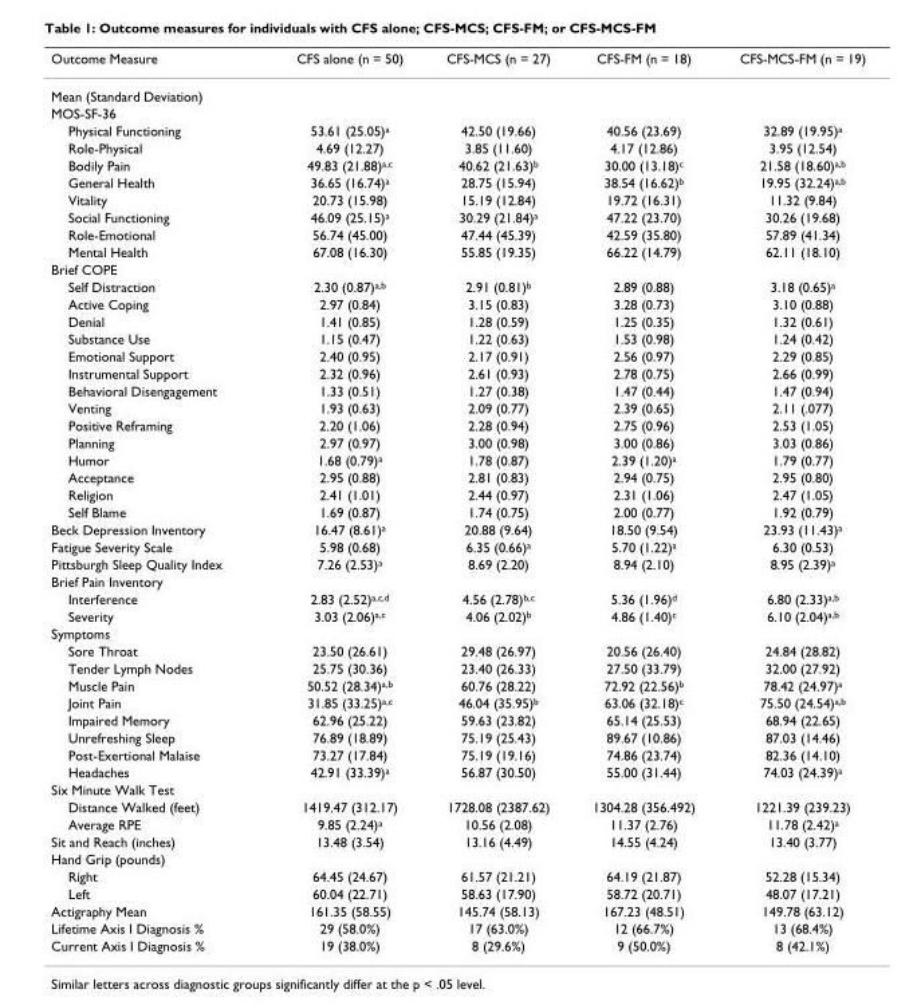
<table><thead><tr><td>Outcome Measure</td><td>CFS alone (n = 50)</td><td>CFS-MCS (n = 27)</td><td>CFS-FM (n = 18)</td><td>CFS-MCS-FM (n = 19)</td></tr></thead><tbody><tr><td colspan="5">Mean (Standard Deviation)</td></tr><tr><td colspan="5">MOS-SF-36</td></tr><tr><td>Physical Functioning</td><td>53.61 (25.05)<sup>a</sup></td><td>42.50 (19.66)</td><td>40.56 (23.69)</td><td>32.89 (19.95)<sup>a</sup></td></tr><tr><td>Role-Physical</td><td>4.69 (12.27)</td><td>3.85 (11.60)</td><td>4.17 (12.86)</td><td>3.95 (12.54)</td></tr><tr><td>Bodily Pain</td><td>49.83 (21.88)<sup>a,c</sup></td><td>40.62 (21.63)<sup>b</sup></td><td>30.00 (13.18)<sup>c</sup></td><td>21.58 (18.60)<sup>a,b</sup></td></tr><tr><td>General Health</td><td>36.65 (16.74)<sup>a</sup></td><td>28.75 (15.94)</td><td>38.54 (16.62)<sup>b</sup></td><td>19.95 (32.24)<sup>a,b</sup></td></tr><tr><td>Vitality</td><td>20.73 (15.98)</td><td>15.19 (12.84)</td><td>19.72 (16.31)</td><td>11.32 (9.84)</td></tr><tr><td>Social Functioning</td><td>46.09 (25.15)<sup>a</sup></td><td>30.29 (21.84)<sup>a</sup></td><td>47.22 (23.70)</td><td>30.26 (19.68)</td></tr><tr><td>Role-Emotional</td><td>56.74 (45.00)</td><td>47.44 (45.39)</td><td>42.59 (35.80)</td><td>57.89 (41.34)</td></tr><tr><td>Mental Health</td><td>67.08 (16.30)</td><td>55.85 (19.35)</td><td>66.22 (14.79)</td><td>62.11 (18.10)</td></tr><tr><td colspan="5">Brief COPE</td></tr><tr><td>Self Distraction</td><td>2.30 (0.87)<sup>a,b</sup></td><td>2.91 (0.81)<sup>b</sup></td><td>2.89 (0.88)</td><td>3.18 (0.65)<sup>a</sup></td></tr><tr><td>Active Coping</td><td>2.97 (0.84)</td><td>3.15 (0.83)</td><td>3.28 (0.73)</td><td>3.10 (0.88)</td></tr><tr><td>Denial</td><td>1.41 (0.85)</td><td>1.28 (0.59)</td><td>1.25 (0.35)</td><td>1.32 (0.61)</td></tr><tr><td>Substance Use</td><td>1.15 (0.47)</td><td>1.22 (0.63)</td><td>1.53 (0.98)</td><td>1.24 (0.42)</td></tr><tr><td>Emotional Support</td><td>2.40 (0.95)</td><td>2.17 (0.91)</td><td>2.56 (0.97)</td><td>2.29 (0.85)</td></tr><tr><td>Instrumental Support</td><td>2.32 (0.96)</td><td>2.61 (0.93)</td><td>2.78 (0.75)</td><td>2.66 (0.99)</td></tr><tr><td>Behavioral Disengagement</td><td>1.33 (0.51)</td><td>1.27 (0.38)</td><td>1.47 (0.44)</td><td>1.47 (0.94)</td></tr><tr><td>Venting</td><td>1.93 (0.63)</td><td>2.09 (0.77)</td><td>2.39 (0.65)</td><td>2.11 (.077)</td></tr><tr><td>Positive Reframing</td><td>2.20 (1.06)</td><td>2.28 (0.94)</td><td>2.75 (0.96)</td><td>2.53 (1.05)</td></tr><tr><td>Planning</td><td>2.97 (0.97)</td><td>3.00 (0.98)</td><td>3.00 (0.86)</td><td>3.03 (0.86)</td></tr><tr><td>Humor</td><td>1.68 (0.79)<sup>a</sup></td><td>1.78 (0.87)</td><td>2.39 (1.20)<sup>a</sup></td><td>1.79 (0.77)</td></tr><tr><td>Acceptance</td><td>2.95 (0.88)</td><td>2.81 (0.83)</td><td>2.94 (0.75)</td><td>2.95 (0.80)</td></tr><tr><td>Religion</td><td>2.41 (1.01)</td><td>2.44 (0.97)</td><td>2.31 (1.06)</td><td>2.47 (1.05)</td></tr><tr><td>Self Blame</td><td>1.69 (0.87)</td><td>1.74 (0.75)</td><td>2.00 (0.77)</td><td>1.92 (0.79)</td></tr><tr><td>Beck Depression Inventory</td><td>16.47 (8.61)<sup>a</sup></td><td>20.88 (9.64)</td><td>18.50 (9.54)</td><td>23.93 (11.43)<sup>a</sup></td></tr><tr><td>Fatigue Severity Scale</td><td>5.98 (0.68)</td><td>6.35 (0.66)<sup>a</sup></td><td>5.70 (1.22)<sup>a</sup></td><td>6.30 (0.53)</td></tr><tr><td>Pittsburgh Sleep Quality Index</td><td>7.26 (2.53)<sup>a</sup></td><td>8.69 (2.20)</td><td>8.94 (2.10)</td><td>8.95 (2.39)<sup>a</sup></td></tr><tr><td colspan="5">Brief Pain Inventory</td></tr><tr><td>Interference</td><td>2.83 (2.52)<sup>a,c,d</sup></td><td>4.56 (2.78)<sup>b,c</sup></td><td>5.36 (1.96)<sup>d</sup></td><td>6.80 (2.33)<sup>a,b</sup></td></tr><tr><td>Severity</td><td>3.03 (2.06)<sup>a,c</sup></td><td>4.06 (2.02)<sup>b</sup></td><td>4.86 (1.40)<sup>c</sup></td><td>6.10 (2.04)<sup>a,b</sup></td></tr><tr><td colspan="5">Symptoms</td></tr><tr><td>Sore Throat</td><td>23.50 (26.61)</td><td>29.48 (26.97)</td><td>20.56 (26.40)</td><td>24.84 (28.82)</td></tr><tr><td>Tender Lymph Nodes</td><td>25.75 (30.36)</td><td>23.40 (26.33)</td><td>27.50 (33.79)</td><td>32.00 (27.92)</td></tr><tr><td>Muscle Pain</td><td>50.52 (28.34)<sup>a,b</sup></td><td>60.76 (28.22)</td><td>72.92 (22.56)<sup>b</sup></td><td>78.42 (24.97)<sup>a</sup></td></tr><tr><td>Joint Pain</td><td>31.85 (33.25)<sup>a,c</sup></td><td>46.04 (35.95)<sup>b</sup></td><td>63.06 (32.18)<sup>c</sup></td><td>75.50 (24.54)<sup>a,b</sup></td></tr><tr><td>Impaired Memory</td><td>62.96 (25.22)</td><td>59.63 (23.82)</td><td>65.14 (25.53)</td><td>68.94 (22.65)</td></tr><tr><td>Unrefreshing Sleep</td><td>76.89 (18.89)</td><td>75.19 (25.43)</td><td>89.67 (10.86)</td><td>87.03 (14.46)</td></tr><tr><td>Post-Exertional Malaise</td><td>73.27 (17.84)</td><td>75.19 (19.16)</td><td>74.86 (23.74)</td><td>82.36 (14.10)</td></tr><tr><td>Headaches</td><td>42.91 (33.39)<sup>a</sup></td><td>56.87 (30.50)</td><td>55.00 (31.44)</td><td>74.03 (24.39)<sup>a</sup></td></tr><tr><td colspan="5">Six Minute Walk Test</td></tr><tr><td>Distance Walked (feet)</td><td>1419.47 (312.17)</td><td>1728.08 (2387.62)</td><td>1304.28 (356.492)</td><td>1221.39 (239.23)</td></tr><tr><td>Average RPE</td><td>9.85 (2.24)<sup>a</sup></td><td>10.56 (2.08)</td><td>11.37 (2.76)</td><td>11.78 (2.42)<sup>a</sup></td></tr><tr><td>Sit and Reach (inches)</td><td>13.48 (3.54)</td><td>13.16 (4.49)</td><td>14.55 (4.24)</td><td>13.40 (3.77)</td></tr><tr><td colspan="5">Hand Grip (pounds)</td></tr><tr><td>Right</td><td>64.45 (24.67)</td><td>61.57 (21.21)</td><td>64.19 (21.87)</td><td>52.28 (15.34)</td></tr><tr><td>Left</td><td>60.04 (22.71)</td><td>58.63 (17.90)</td><td>58.72 (20.71)</td><td>48.07 (17.21)</td></tr><tr><td>Actigraphy Mean</td><td>161.35 (58.55)</td><td>145.74 (58.13)</td><td>167.23 (48.51)</td><td>149.78 (63.12)</td></tr><tr><td>Lifetime Axis I Diagnosis %</td><td>29 (58.0%)</td><td>17 (63.0%)</td><td>12 (66.7%)</td><td>13 (68.4%)</td></tr><tr><td>Current Axis I Diagnosis %</td><td>19 (38.0%)</td><td>8 (29.6%)</td><td>9 (50.0%)</td><td>8 (42.1%)</td></tr></tbody></table>